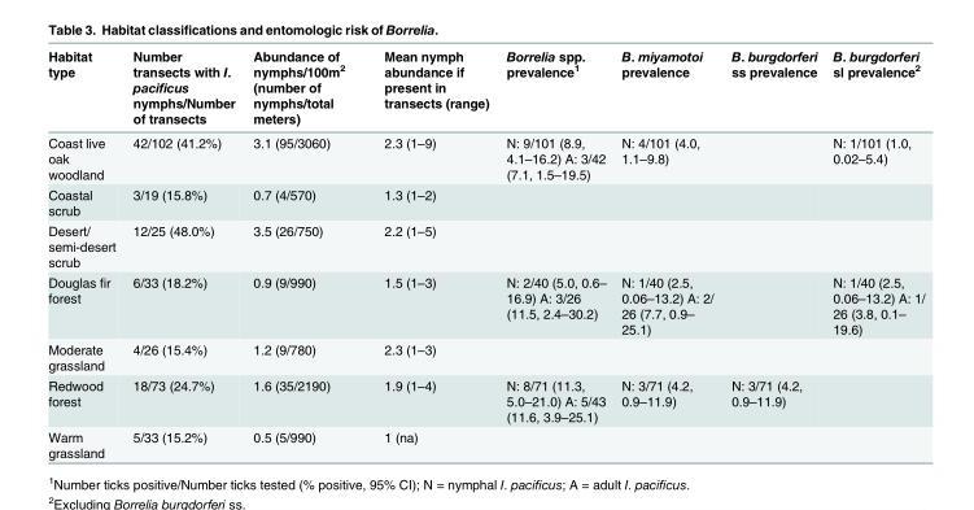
<table><thead><tr><td>Habitat type</td><td>Number transects with I. pacificus nymphs/Number of transects</td><td>Abundance of nymphs/100m<sup>2</sup> (number of nymphs/total meters)</td><td>Mean nymph abundance if present in transects (range)</td><td>Borrelia spp. prevalence<sup>1</sup></td><td>B. miyamotoi prevalence</td><td>B. burgdorferi ss prevalence</td><td>B. burgdorferi sl prevalence<sup>2</sup></td></tr></thead><tbody><tr><td>Coast live oak woodland</td><td>42/102 (41.2%)</td><td>3.1 (95/3060)</td><td>2.3 (1–9)</td><td>N: 9/101 (8.9, 4.1–16.2) A: 3/42 (7.1, 1.5–19.5)</td><td>N: 4/101 (4.0, 1.1–9.8)</td><td></td><td>N: 1/101 (1.0, 0.02–5.4)</td></tr><tr><td>Coastal scrub</td><td>3/19 (15.8%)</td><td>0.7 (4/570)</td><td>1.3 (1–2)</td><td></td><td></td><td></td><td></td></tr><tr><td>Desert/ semi-desert scrub</td><td>12/25 (48.0%)</td><td>3.5 (26/750)</td><td>2.2 (1–5)</td><td></td><td></td><td></td><td></td></tr><tr><td>Douglas fir forest</td><td>6/33 (18.2%)</td><td>0.9 (9/990)</td><td>1.5 (1–3)</td><td>N: 2/40 (5.0, 0.6– 16.9) A: 3/26 (11.5, 2.4–30.2)</td><td>N: 1/40 (2.5, 0.06–13.2) A: 2/ 26 (7.7, 0.9– 25.1)</td><td></td><td>N: 1/40 (2.5, 0.06–13.2) A: 1/ 26 (3.8, 0.1– 19.6)</td></tr><tr><td>Moderate grassland</td><td>4/26 (15.4%)</td><td>1.2 (9/780)</td><td>2.3 (1–3)</td><td></td><td></td><td></td><td></td></tr><tr><td>Redwood forest</td><td>18/73 (24.7%)</td><td>1.6 (35/2190)</td><td>1.9 (1–4)</td><td>N: 8/71 (11.3, 5.0–21.0) A: 5/43 (11.6, 3.9–25.1)</td><td>N: 3/71 (4.2, 0.9–11.9)</td><td>N: 3/71 (4.2, 0.9–11.9)</td><td></td></tr><tr><td>Warm grassland</td><td>5/33 (15.2%)</td><td>0.5 (5/990)</td><td>1 (na)</td><td></td><td></td><td></td><td></td></tr></tbody></table>